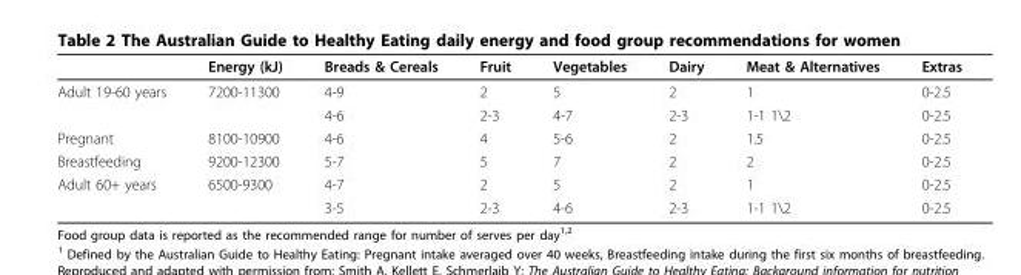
<table><thead><tr><td></td><td>Energy (kJ)</td><td>Breads &amp; Cereals</td><td>Fruit</td><td>Vegetables</td><td>Dairy</td><td>Meat &amp; Alternatives</td><td>Extras</td></tr></thead><tbody><tr><td rowspan="2">Adult 19-60 years</td><td>7200-11300</td><td>4-9</td><td>2</td><td>5</td><td>2</td><td>1</td><td>0-2.5</td></tr><tr><td></td><td>4-6</td><td>2-3</td><td>4-7</td><td>2-3</td><td>1-1 1\2</td><td>0-2.5</td></tr><tr><td>Pregnant</td><td>8100-10900</td><td>4-6</td><td>4</td><td>5-6</td><td>2</td><td>1.5</td><td>0-2.5</td></tr><tr><td>Breastfeeding</td><td>9200-12300</td><td>5-7</td><td>5</td><td>7</td><td>2</td><td>2</td><td>0-2.5</td></tr><tr><td rowspan="2">Adult 60+ years</td><td>6500-9300</td><td>4-7</td><td>2</td><td>5</td><td>2</td><td>1</td><td>0-2.5</td></tr><tr><td></td><td>3-5</td><td>2-3</td><td>4-6</td><td>2-3</td><td>1-1 1\2</td><td>0-2.5</td></tr></tbody></table>